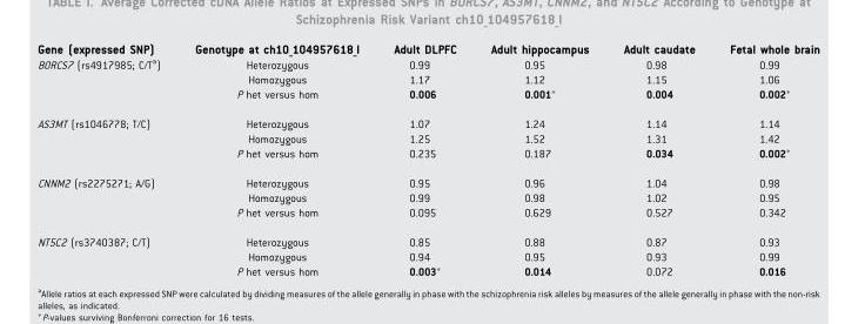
<table><thead><tr><td>Gene (expressed SNP)</td><td>Genotype at ch10_104957618_I</td><td>Adult DLPFC</td><td>Adult hippocampus</td><td>Adult caudate</td><td>Fetal whole brain</td></tr></thead><tbody><tr><td rowspan="3">BORCS7 (rs4917985; C/T<sup>a</sup>)</td><td>Heterozygous</td><td>0.99</td><td>0.95</td><td>0.98</td><td>0.99</td></tr><tr><td>Homozygous</td><td>1.17</td><td>1.12</td><td>1.15</td><td>1.06</td></tr><tr><td>P het versus hom</td><td>0.006</td><td>0.001*</td><td>0.004</td><td>0.002*</td></tr><tr><td rowspan="3">AS3MT (rs1046778; T/C)</td><td>Heterozygous</td><td>1.07</td><td>1.24</td><td>1.14</td><td>1.14</td></tr><tr><td>Homozygous</td><td>1.25</td><td>1.52</td><td>1.31</td><td>1.42</td></tr><tr><td>P het versus hom</td><td>0.235</td><td>0.187</td><td>0.034</td><td>0.002*</td></tr><tr><td rowspan="3">CNNM2 (rs2275271; A/G)</td><td>Heterozygous</td><td>0.95</td><td>0.96</td><td>1.04</td><td>0.98</td></tr><tr><td>Homozygous</td><td>0.99</td><td>0.98</td><td>1.02</td><td>0.95</td></tr><tr><td>P het versus hom</td><td>0.095</td><td>0.629</td><td>0.527</td><td>0.342</td></tr><tr><td rowspan="3">NT5C2 (rs3740387; C/T)</td><td>Heterozygous</td><td>0.85</td><td>0.88</td><td>0.87</td><td>0.93</td></tr><tr><td>Homozygous</td><td>0.94</td><td>0.95</td><td>0.93</td><td>0.99</td></tr><tr><td>P het versus hom</td><td>0.003*</td><td>0.014</td><td>0.072</td><td>0.016</td></tr></tbody></table>